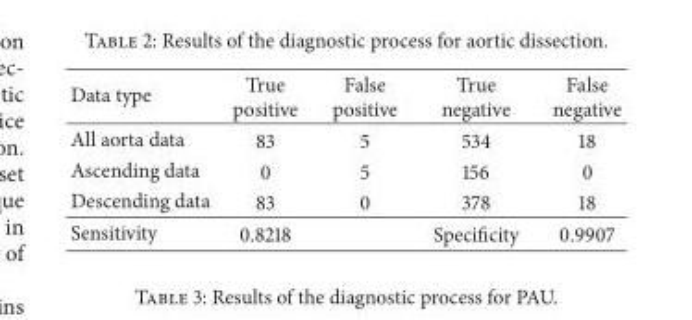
<table><thead><tr><td>Data type</td><td>True positive</td><td>False positive</td><td>True negative</td><td>False negative</td></tr></thead><tbody><tr><td>All aorta data</td><td>83</td><td>5</td><td>534</td><td>18</td></tr><tr><td>Ascending data</td><td>0</td><td>5</td><td>156</td><td>0</td></tr><tr><td>Descending data</td><td>83</td><td>0</td><td>378</td><td>18</td></tr><tr><td>Sensitivity</td><td>0.8218</td><td></td><td>Specificity</td><td>0.9907</td></tr></tbody></table>